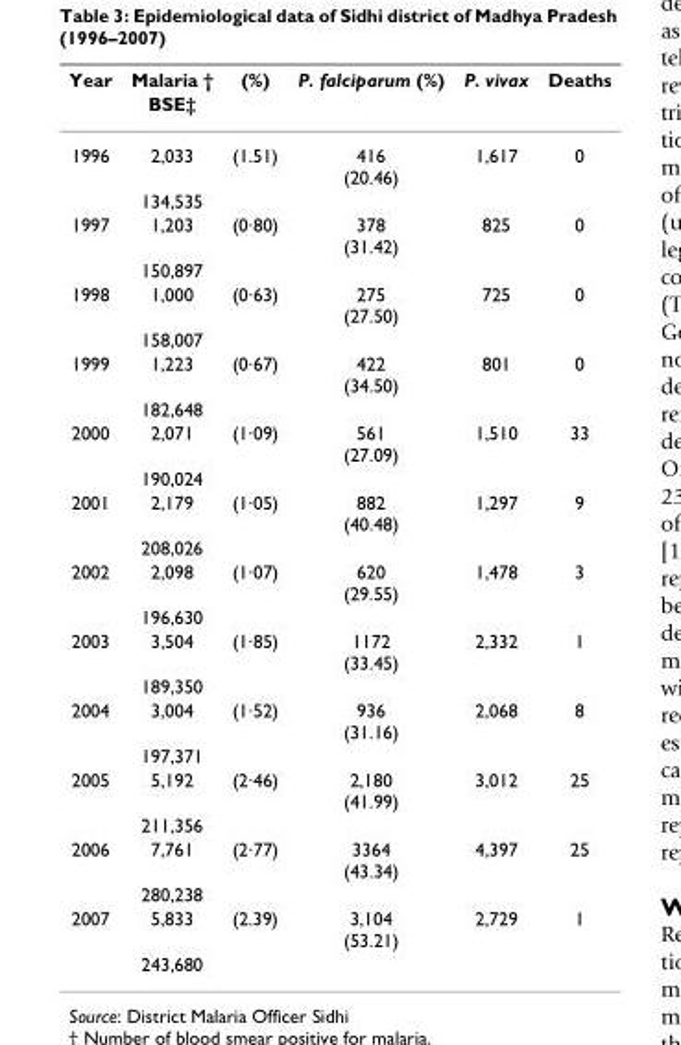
<table><thead><tr><td rowspan="2">Year</td><td rowspan="2">Malaria † BSE‡</td><td rowspan="2">(%)</td><td rowspan="2">P. falciparum (%)</td><td rowspan="2">P. vivax</td><td rowspan="2">Deaths</td></tr><tr></tr></thead><tbody><tr><td rowspan="2">1996</td><td>2,033</td><td>(1.51)</td><td>416 (20.46)</td><td>1,617</td><td>0</td></tr><tr><td>134,535</td><td></td><td></td><td></td><td></td></tr><tr><td rowspan="2">1997</td><td>1,203</td><td>(0·80)</td><td>378 (31.42)</td><td>825</td><td>0</td></tr><tr><td>150,897</td><td></td><td></td><td></td><td></td></tr><tr><td rowspan="2">1998</td><td>1,000</td><td>(0·63)</td><td>275 (27.50)</td><td>725</td><td>0</td></tr><tr><td>158,007</td><td></td><td></td><td></td><td></td></tr><tr><td rowspan="2">1999</td><td>1,223</td><td>(0·67)</td><td>422 (34.50)</td><td>801</td><td>0</td></tr><tr><td>182,648</td><td></td><td></td><td></td><td></td></tr><tr><td rowspan="2">2000</td><td>2,071</td><td>(1·09)</td><td>561 (27.09)</td><td>1,510</td><td>33</td></tr><tr><td>190,024</td><td></td><td></td><td></td><td></td></tr><tr><td rowspan="2">2001</td><td>2,179</td><td>(1·05)</td><td>882 (40.48)</td><td>1,297</td><td>9</td></tr><tr><td>208,026</td><td></td><td></td><td></td><td></td></tr><tr><td rowspan="2">2002</td><td>2,098</td><td>(1·07)</td><td>620 (29.55)</td><td>1,478</td><td>3</td></tr><tr><td>196,630</td><td></td><td></td><td></td><td></td></tr><tr><td rowspan="2">2003</td><td>3,504</td><td>(1·85)</td><td>1172 (33.45)</td><td>2,332</td><td>1</td></tr><tr><td>189,350</td><td></td><td></td><td></td><td></td></tr><tr><td rowspan="2">2004</td><td>3,004</td><td>(1·52)</td><td>936 (31.16)</td><td>2,068</td><td>8</td></tr><tr><td>197,371</td><td></td><td></td><td></td><td></td></tr><tr><td rowspan="2">2005</td><td>5,192</td><td>(2·46)</td><td>2,180 (41.99)</td><td>3,012</td><td>25</td></tr><tr><td>211,356</td><td></td><td></td><td></td><td></td></tr><tr><td rowspan="2">2006</td><td>7,761</td><td>(2·77)</td><td>3364 (43.34)</td><td>4,397</td><td>25</td></tr><tr><td>280,238</td><td></td><td></td><td></td><td></td></tr><tr><td rowspan="2">2007</td><td>5,833</td><td>(2.39)</td><td>3,104 (53.21)</td><td>2,729</td><td>1</td></tr><tr><td>243,680</td><td></td><td></td><td></td><td></td></tr></tbody></table>